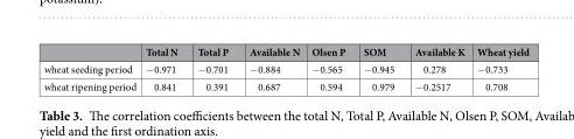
<table><thead><tr><td></td><td>Total N</td><td>Total P</td><td>Available N</td><td>Olsen P</td><td>SOM</td><td>Available K</td><td>Wheat yield</td></tr></thead><tbody><tr><td>wheat seeding period</td><td>−0.971</td><td>−0.701</td><td>−0.884</td><td>−0.565</td><td>−0.945</td><td>0.278</td><td>−0.733</td></tr><tr><td>wheat ripening period</td><td>0.841</td><td>0.391</td><td>0.687</td><td>0.594</td><td>0.979</td><td>−0.2517</td><td>0.708</td></tr></tbody></table>